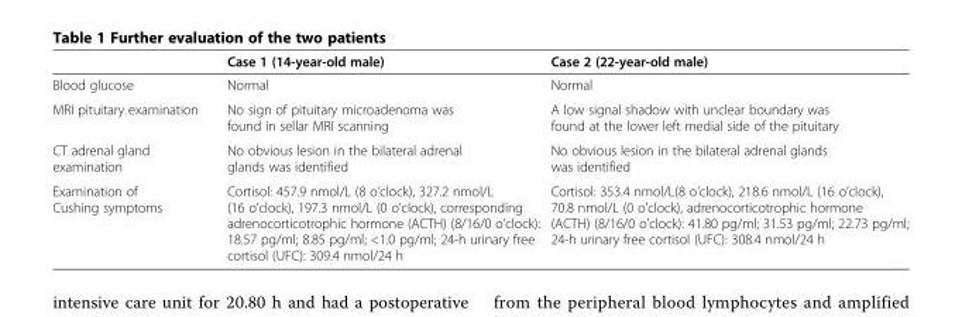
<table><thead><tr><td></td><td>Case 1 (14-year-old male)</td><td>Case 2 (22-year-old male)</td></tr></thead><tbody><tr><td>Blood glucose</td><td>Normal</td><td>Normal</td></tr><tr><td>MRI pituitary examination</td><td>No sign of pituitary microadenoma was found in sellar MRI scanning</td><td>A low signal shadow with unclear boundary was found at the lower left medial side of the pituitary</td></tr><tr><td>CT adrenal gland examination</td><td>No obvious lesion in the bilateral adrenal glands was identified</td><td>No obvious lesion in the bilateral adrenal glands was identified</td></tr><tr><td>Examination of Cushing symptoms</td><td>Cortisol: 457.9 nmol/L (8 o’clock), 327.2 nmol/L (16 o’clock), 197.3 nmol/L (0 o’clock), corresponding adrenocorticotrophic hormone (ACTH) (8/16/0 o’clock): 18.57 pg/ml; 8.85 pg/ml; &lt;1.0 pg/ml; 24-h urinary free cortisol (UFC): 309.4 nmol/24 h</td><td>Cortisol: 353.4 nmol/L(8 o’clock), 218.6 nmol/L (16 o’clock), 70.8 nmol/L (0 o’clock), adrenocorticotrophic hormone (ACTH) (8/16/0 o’clock): 41.80 pg/ml; 31.53 pg/ml; 22.73 pg/ml; 24-h urinary free cortisol (UFC): 308.4 nmol/24 h</td></tr></tbody></table>